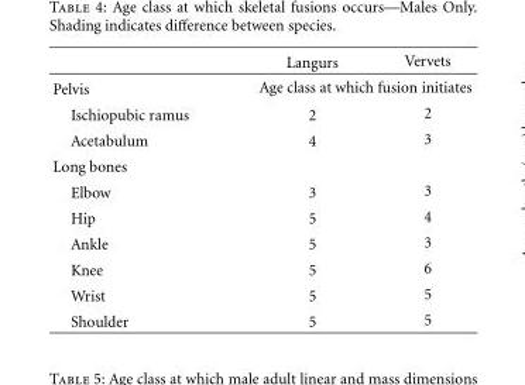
<table><thead><tr><td></td><td>Langurs</td><td>Vervets</td></tr></thead><tbody><tr><td>Pelvis</td><td colspan="2">Age class at which fusion initiates</td></tr><tr><td>Ischiopubic ramus</td><td>2</td><td>2</td></tr><tr><td>Acetabulum</td><td>4</td><td>3</td></tr><tr><td colspan="3">Long bones</td></tr><tr><td>Elbow</td><td>3</td><td>3</td></tr><tr><td>Hip</td><td>5</td><td>4</td></tr><tr><td>Ankle</td><td>5</td><td>3</td></tr><tr><td>Knee</td><td>5</td><td>6</td></tr><tr><td>Wrist</td><td>5</td><td>5</td></tr><tr><td>Shoulder</td><td>5</td><td>5</td></tr></tbody></table>